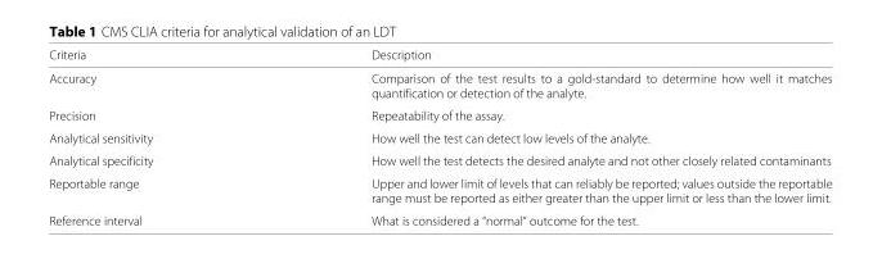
<table><thead><tr><td>Criteria</td><td>Description</td></tr></thead><tbody><tr><td>Accuracy</td><td>Comparison of the test results to a gold-standard to determine how well it matches quantification or detection of the analyte.</td></tr><tr><td>Precision</td><td>Repeatability of the assay.</td></tr><tr><td>Analytical sensitivity</td><td>How well the test can detect low levels of the analyte.</td></tr><tr><td>Analytical specificity</td><td>How well the test detects the desired analyte and not other closely related contaminants</td></tr><tr><td>Reportable range</td><td>Upper and lower limit of levels that can reliably be reported; values outside the reportable range must be reported as either greater than the upper limit or less than the lower limit.</td></tr><tr><td>Reference interval</td><td>What is considered a “normal” outcome for the test.</td></tr></tbody></table>